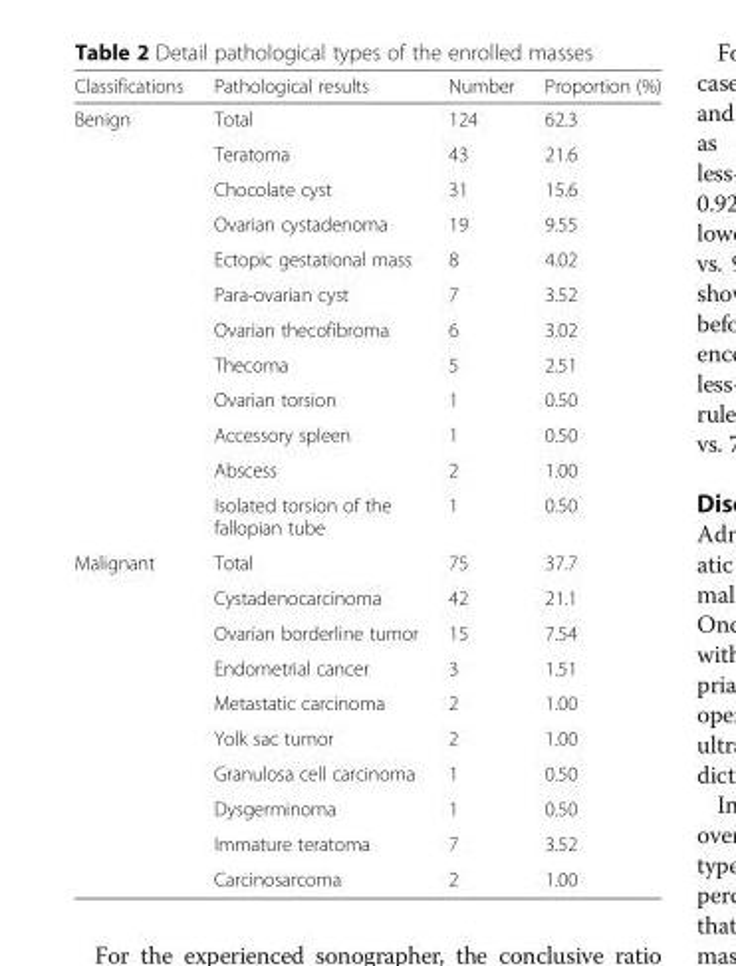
<table><thead><tr><td>Classifications</td><td>Pathological results</td><td>Number</td><td>Proportion (%)</td></tr></thead><tbody><tr><td rowspan="12">Benign</td><td>Total</td><td>124</td><td>62.3</td></tr><tr><td>Teratoma</td><td>43</td><td>21.6</td></tr><tr><td>Chocolate cyst</td><td>31</td><td>15.6</td></tr><tr><td>Ovarian cystadenoma</td><td>19</td><td>9.55</td></tr><tr><td>Ectopic gestational mass</td><td>8</td><td>4.02</td></tr><tr><td>Para-ovarian cyst</td><td>7</td><td>3.52</td></tr><tr><td>Ovarian thecofibroma</td><td>6</td><td>3.02</td></tr><tr><td>Thecoma</td><td>5</td><td>2.51</td></tr><tr><td>Ovarian torsion</td><td>1</td><td>0.50</td></tr><tr><td>Accessory spleen</td><td>1</td><td>0.50</td></tr><tr><td>Abscess</td><td>2</td><td>1.00</td></tr><tr><td>Isolated torsion of the fallopian tube</td><td>1</td><td>0.50</td></tr><tr><td rowspan="10">Malignant</td><td>Total</td><td>75</td><td>37.7</td></tr><tr><td>Cystadenocarcinoma</td><td>42</td><td>21.1</td></tr><tr><td>Ovarian borderline tumor</td><td>15</td><td>7.54</td></tr><tr><td>Endometrial cancer</td><td>3</td><td>1.51</td></tr><tr><td>Metastatic carcinoma</td><td>2</td><td>1.00</td></tr><tr><td>Yolk sac tumor</td><td>2</td><td>1.00</td></tr><tr><td>Granulosa cell carcinoma</td><td>1</td><td>0.50</td></tr><tr><td>Dysgerminoma</td><td>1</td><td>0.50</td></tr><tr><td>Immature teratoma</td><td>7</td><td>3.52</td></tr><tr><td>Carcinosarcoma</td><td>2</td><td>1.00</td></tr></tbody></table>